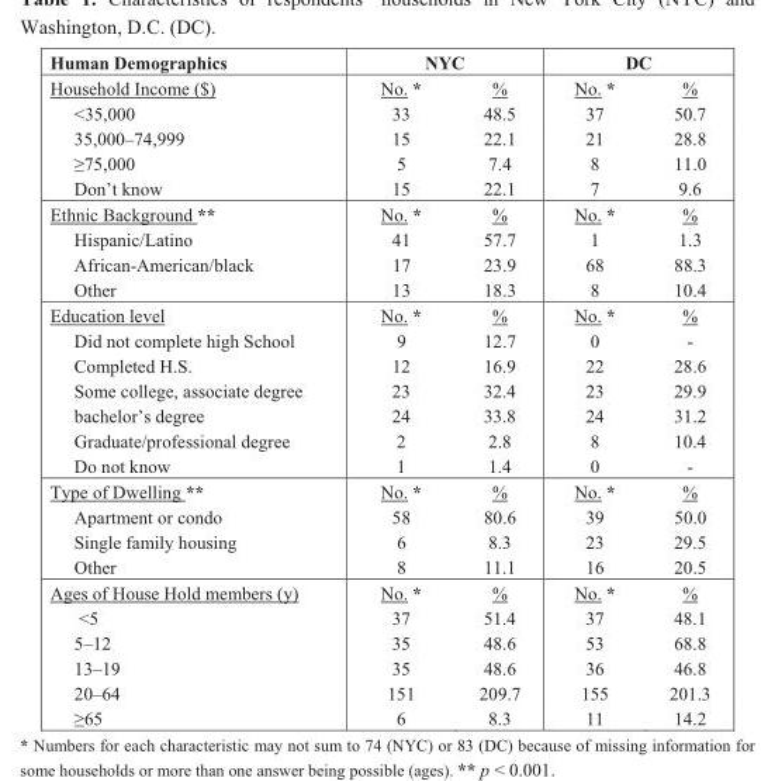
<table><thead><tr><td rowspan="2">Human Demographics Household Income ($)</td><td colspan="2">NYC</td><td colspan="2">DC</td></tr><tr><td>No. *</td><td>%</td><td>No. *</td><td>%</td></tr></thead><tbody><tr><td>&lt;35,000</td><td>33</td><td>48.5</td><td>37</td><td>50.7</td></tr><tr><td>35,000–74,999</td><td>15</td><td>22.1</td><td>21</td><td>28.8</td></tr><tr><td>≥75,000</td><td>5</td><td>7.4</td><td>8</td><td>11.0</td></tr><tr><td>Don’t know</td><td>15</td><td>22.1</td><td>7</td><td>9.6</td></tr><tr><td>Ethnic Background **</td><td>No. *</td><td>%</td><td>No. *</td><td>%</td></tr><tr><td>Hispanic/Latino</td><td>41</td><td>57.7</td><td>1</td><td>1.3</td></tr><tr><td>African-American/black</td><td>17</td><td>23.9</td><td>68</td><td>88.3</td></tr><tr><td>Other</td><td>13</td><td>18.3</td><td>8</td><td>10.4</td></tr><tr><td>Education level</td><td>No. *</td><td>%</td><td>No. *</td><td>%</td></tr><tr><td>Did not complete high School</td><td>9</td><td>12.7</td><td>0</td><td>-</td></tr><tr><td>Completed H.S.</td><td>12</td><td>16.9</td><td>22</td><td>28.6</td></tr><tr><td>Some college, associate degree</td><td>23</td><td>32.4</td><td>23</td><td>29.9</td></tr><tr><td>bachelor’s degree</td><td>24</td><td>33.8</td><td>24</td><td>31.2</td></tr><tr><td>Graduate/professional degree</td><td>2</td><td>2.8</td><td>8</td><td>10.4</td></tr><tr><td>Do not know</td><td>1</td><td>1.4</td><td>0</td><td>-</td></tr><tr><td>Type of Dwelling **</td><td>No. *</td><td>%</td><td>No. *</td><td>%</td></tr><tr><td>Apartment or condo</td><td>58</td><td>80.6</td><td>39</td><td>50.0</td></tr><tr><td>Single family housing</td><td>6</td><td>8.3</td><td>23</td><td>29.5</td></tr><tr><td>Other</td><td>8</td><td>11.1</td><td>16</td><td>20.5</td></tr><tr><td>Ages of House Hold members (y)</td><td>No. *</td><td>%</td><td>No. *</td><td>%</td></tr><tr><td>&lt;5</td><td>37</td><td>51.4</td><td>37</td><td>48.1</td></tr><tr><td>5–12</td><td>35</td><td>48.6</td><td>53</td><td>68.8</td></tr><tr><td>13–19</td><td>35</td><td>48.6</td><td>36</td><td>46.8</td></tr><tr><td>20–64</td><td>151</td><td>209.7</td><td>155</td><td>201.3</td></tr><tr><td>≥65</td><td>6</td><td>8.3</td><td>11</td><td>14.2</td></tr></tbody></table>